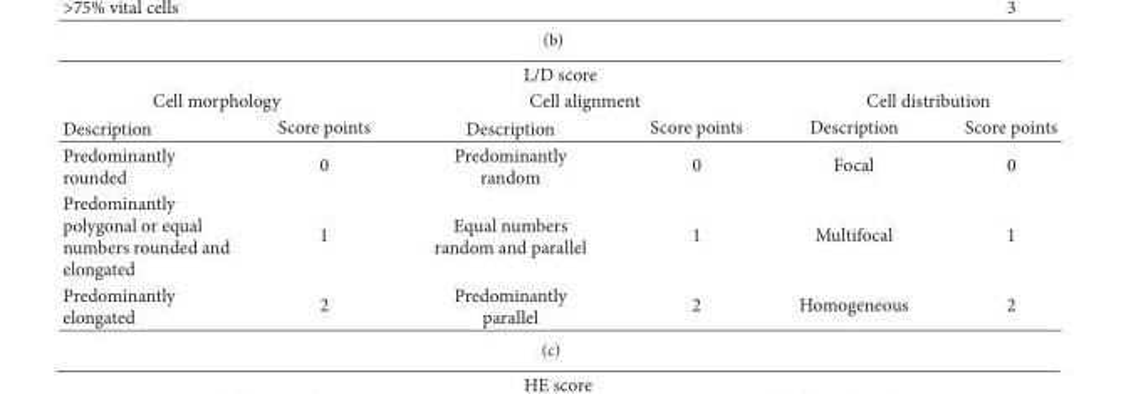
<table><thead><tr><td colspan="6">L/D score</td></tr><tr><td colspan="2">Cell morphology</td><td colspan="2">Cell alignment</td><td colspan="2">Cell distribution</td></tr><tr><td>Description</td><td>Score points</td><td>Description</td><td>Score points</td><td>Description</td><td>Score points</td></tr></thead><tbody><tr><td>Predominantly rounded</td><td>0</td><td>Predominantly random</td><td>0</td><td>Focal</td><td>0</td></tr><tr><td>Predominantly polygonal or equal numbers rounded and elongated</td><td>1</td><td>Equal numbers random and parallel</td><td>1</td><td>Multifocal</td><td>1</td></tr><tr><td>Predominantly elongated</td><td>2</td><td>Predominantly parallel</td><td>2</td><td>Homogeneous</td><td>2</td></tr></tbody></table>